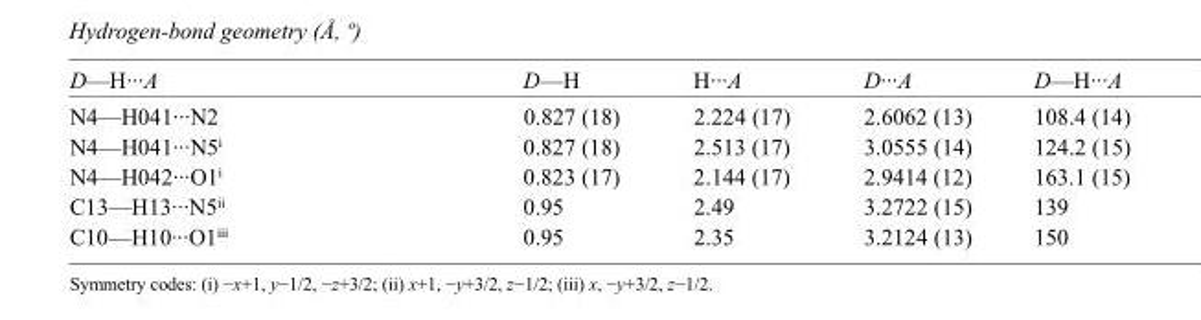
<table><tbody><tr><td>D—H···A</td><td>D—H</td><td>H···A</td><td>D···A</td><td>D—H···A</td></tr><tr><td>N4—H041···N2</td><td>0.827 (18)</td><td>2.224 (17)</td><td>2.6062 (13)</td><td>108.4 (14)</td></tr><tr><td>N4—H041···N5<sup>i</sup></td><td>0.827 (18)</td><td>2.513 (17)</td><td>3.0555 (14)</td><td>124.2 (15)</td></tr><tr><td>N4—H042···O1<sup>i</sup></td><td>0.823 (17)</td><td>2.144 (17)</td><td>2.9414 (12)</td><td>163.1 (15)</td></tr><tr><td>C13—H13···N5<sup>ii</sup></td><td>0.95</td><td>2.49</td><td>3.2722 (15)</td><td>139</td></tr><tr><td>C10—H10···O1<sup>iii</sup></td><td>0.95</td><td>2.35</td><td>3.2124 (13)</td><td>150</td></tr></tbody></table>